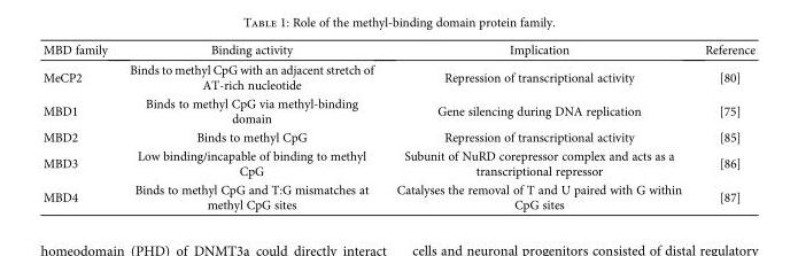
<table><thead><tr><td>MBD family</td><td>Binding activity</td><td>Implication</td><td>Reference</td></tr></thead><tbody><tr><td>MeCP2</td><td>Binds to methyl CpG with an adjacent stretch of AT-rich nucleotide</td><td>Repression of transcriptional activity</td><td>[80]</td></tr><tr><td>MBD1</td><td>Binds to methyl CpG via methyl-binding domain</td><td>Gene silencing during DNA replication</td><td>[75]</td></tr><tr><td>MBD2</td><td>Binds to methyl CpG</td><td>Repression of transcriptional activity</td><td>[85]</td></tr><tr><td>MBD3</td><td>Low binding/incapable of binding to methyl CpG</td><td>Subunit of NuRD corepressor complex and acts as a transcriptional repressor</td><td>[86]</td></tr><tr><td>MBD4</td><td>Binds to methyl CpG and T:G mismatches at methyl CpG sites</td><td>Catalyses the removal of T and U paired with G within CpG sites</td><td>[87]</td></tr></tbody></table>